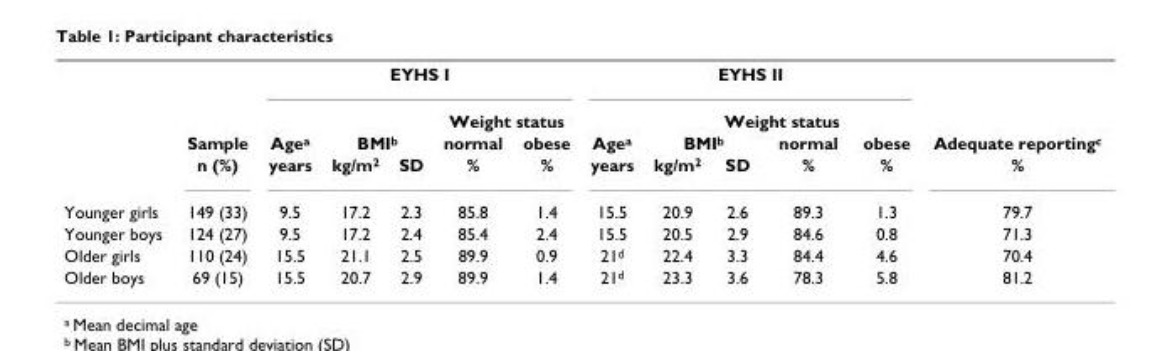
<table><thead><tr><td rowspan="4"></td><td rowspan="4">Sample n (%)</td><td colspan="5">EYHS I</td><td colspan="5">EYHS II</td><td rowspan="4">Adequate reporting<sup>c</sup> %</td></tr><tr><td rowspan="3">Age<sup>a</sup> years</td><td></td><td></td><td colspan="2">Weight status</td><td rowspan="3">Age<sup>a</sup> years</td><td></td><td colspan="2">Weight status</td><td rowspan="3">obese %</td></tr><tr><td colspan="2">BMI<sup>b</sup></td><td rowspan="2">normal %</td><td rowspan="2">obese %</td><td colspan="2">BMI<sup>b</sup></td><td rowspan="2">normal %</td></tr><tr><td>kg/m<sup>2</sup></td><td>SD</td><td>kg/m<sup>2</sup></td><td>SD</td></tr></thead><tbody><tr><td>Younger girls</td><td>149 (33)</td><td>9.5</td><td>17.2</td><td>2.3</td><td>85.8</td><td>1.4</td><td>15.5</td><td>20.9</td><td>2.6</td><td>89.3</td><td>1.3</td><td>79.7</td></tr><tr><td>Younger boys</td><td>124 (27)</td><td>9.5</td><td>17.2</td><td>2.4</td><td>85.4</td><td>2.4</td><td>15.5</td><td>20.5</td><td>2.9</td><td>84.6</td><td>0.8</td><td>71.3</td></tr><tr><td>Older girls</td><td>110 (24)</td><td>15.5</td><td>21.1</td><td>2.5</td><td>89.9</td><td>0.9</td><td>21<sup>d</sup></td><td>22.4</td><td>3.3</td><td>84.4</td><td>4.6</td><td>70.4</td></tr><tr><td>Older boys</td><td>69 (15)</td><td>15.5</td><td>20.7</td><td>2.9</td><td>89.9</td><td>1.4</td><td>21<sup>d</sup></td><td>23.3</td><td>3.6</td><td>78.3</td><td>5.8</td><td>81.2</td></tr></tbody></table>